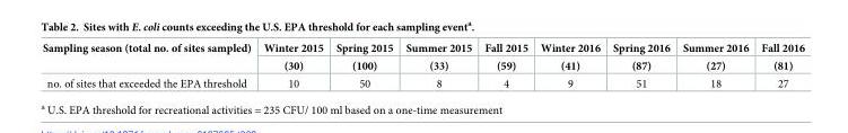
<table><thead><tr><td rowspan="2">Sampling season (total no. of sites sampled)</td><td rowspan="2">Winter 2015 (30)</td><td rowspan="2">Spring 2015 (100)</td><td rowspan="2">Summer 2015 (33)</td><td rowspan="2">Fall 2015 (59)</td><td rowspan="2">Winter 2016 (41)</td><td rowspan="2">Spring 2016 (87)</td><td rowspan="2">Summer 2016 (27)</td><td rowspan="2">Fall 2016 (81)</td></tr><tr></tr></thead><tbody><tr><td>no. of sites that exceeded the EPA threshold</td><td>10</td><td>50</td><td>8</td><td>4</td><td>9</td><td>51</td><td>18</td><td>27</td></tr></tbody></table>